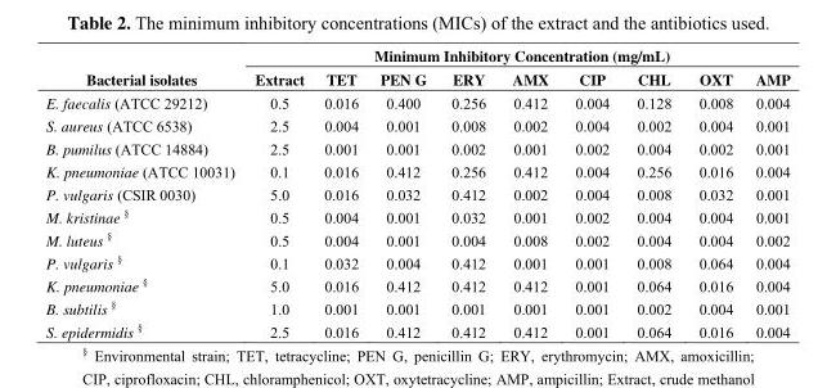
<table><thead><tr><td rowspan="2">Bacterial isolates</td><td colspan="9">Minimum Inhibitory Concentration (mg/mL)</td></tr><tr><td>Extract</td><td>TET</td><td>PEN G</td><td>ERY</td><td>AMX</td><td>CIP</td><td>CHL</td><td>OXT</td><td>AMP</td></tr></thead><tbody><tr><td>E. faecalis (ATCC 29212)</td><td>0.5</td><td>0.016</td><td>0.400</td><td>0.256</td><td>0.412</td><td>0.004</td><td>0.128</td><td>0.008</td><td>0.004</td></tr><tr><td>S. aureus (ATCC 6538)</td><td>2.5</td><td>0.004</td><td>0.001</td><td>0.008</td><td>0.002</td><td>0.004</td><td>0.002</td><td>0.004</td><td>0.001</td></tr><tr><td>B. pumilus (ATCC 14884)</td><td>2.5</td><td>0.001</td><td>0.001</td><td>0.002</td><td>0.001</td><td>0.002</td><td>0.004</td><td>0.002</td><td>0.001</td></tr><tr><td>K. pneumoniae (ATCC 10031)</td><td>0.1</td><td>0.016</td><td>0.412</td><td>0.256</td><td>0.412</td><td>0.004</td><td>0.256</td><td>0.016</td><td>0.004</td></tr><tr><td>P. vulgaris (CSIR 0030)</td><td>5.0</td><td>0.016</td><td>0.032</td><td>0.412</td><td>0.002</td><td>0.004</td><td>0.008</td><td>0.032</td><td>0.001</td></tr><tr><td>M. kristinae §</td><td>0.5</td><td>0.004</td><td>0.001</td><td>0.032</td><td>0.001</td><td>0.002</td><td>0.004</td><td>0.004</td><td>0.001</td></tr><tr><td>M. luteus §</td><td>0.5</td><td>0.004</td><td>0.001</td><td>0.004</td><td>0.008</td><td>0.002</td><td>0.004</td><td>0.004</td><td>0.002</td></tr><tr><td>P. vulgaris §</td><td>0.1</td><td>0.032</td><td>0.004</td><td>0.412</td><td>0.001</td><td>0.001</td><td>0.008</td><td>0.064</td><td>0.004</td></tr><tr><td>K. pneumoniae §</td><td>5.0</td><td>0.016</td><td>0.412</td><td>0.412</td><td>0.412</td><td>0.001</td><td>0.064</td><td>0.016</td><td>0.004</td></tr><tr><td>B. subtilis §</td><td>1.0</td><td>0.001</td><td>0.001</td><td>0.001</td><td>0.001</td><td>0.001</td><td>0.002</td><td>0.004</td><td>0.001</td></tr><tr><td>S. epidermidis §</td><td>2.5</td><td>0.016</td><td>0.412</td><td>0.412</td><td>0.412</td><td>0.001</td><td>0.064</td><td>0.016</td><td>0.004</td></tr></tbody></table>